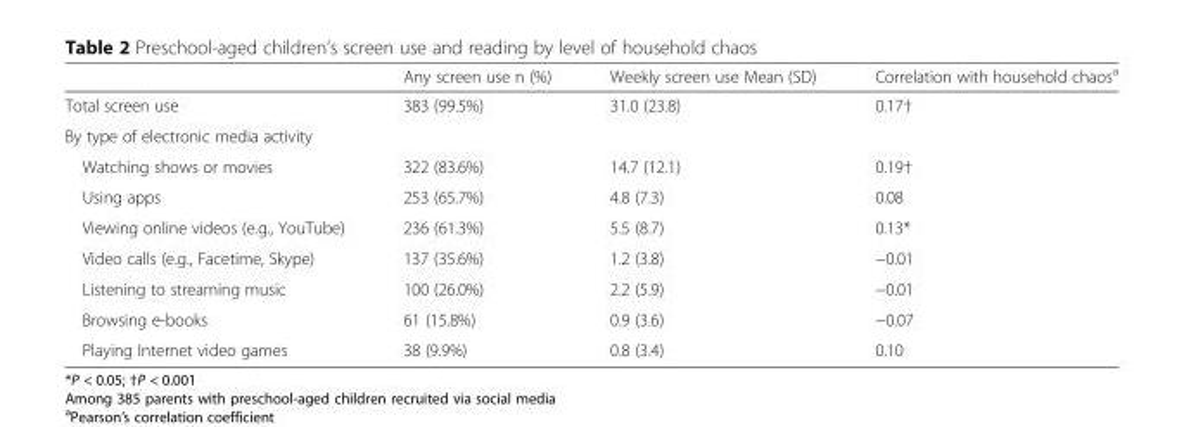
<table><thead><tr><td></td><td>Any screen use n (%)</td><td>Weekly screen use Mean (SD)</td><td>Correlation with household chaos<sup>a</sup></td></tr></thead><tbody><tr><td>Total screen use</td><td>383 (99.5%)</td><td>31.0 (23.8)</td><td>0.17†</td></tr><tr><td colspan="4">By type of electronic media activity</td></tr><tr><td>Watching shows or movies</td><td>322 (83.6%)</td><td>14.7 (12.1)</td><td>0.19†</td></tr><tr><td>Using apps</td><td>253 (65.7%)</td><td>4.8 (7.3)</td><td>0.08</td></tr><tr><td>Viewing online videos (e.g., YouTube)</td><td>236 (61.3%)</td><td>5.5 (8.7)</td><td>0.13*</td></tr><tr><td>Video calls (e.g., Facetime, Skype)</td><td>137 (35.6%)</td><td>1.2 (3.8)</td><td>−0.01</td></tr><tr><td>Listening to streaming music</td><td>100 (26.0%)</td><td>2.2 (5.9)</td><td>−0.01</td></tr><tr><td>Browsing e-books</td><td>61 (15.8%)</td><td>0.9 (3.6)</td><td>−0.07</td></tr><tr><td>Playing Internet video games</td><td>38 (9.9%)</td><td>0.8 (3.4)</td><td>0.10</td></tr></tbody></table>